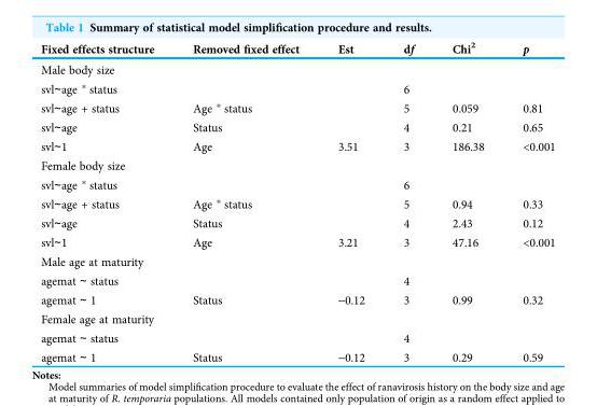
<table><thead><tr><td>Fixed effects structure</td><td>Removed fixed effect</td><td>Est</td><td>df</td><td>Chi<sup>2</sup></td><td>p</td></tr></thead><tbody><tr><td colspan="6">Male body size</td></tr><tr><td>svl∼age * status</td><td></td><td></td><td>6</td><td></td><td></td></tr><tr><td>svl∼age + status</td><td>Age * status</td><td></td><td>5</td><td>0.059</td><td>0.81</td></tr><tr><td>svl∼age</td><td>Status</td><td></td><td>4</td><td>0.21</td><td>0.65</td></tr><tr><td>svl∼1</td><td>Age</td><td>3.51</td><td>3</td><td>186.38</td><td>&lt;0.001</td></tr><tr><td colspan="6">Female body size</td></tr><tr><td>svl∼age * status</td><td></td><td></td><td>6</td><td></td><td></td></tr><tr><td>svl∼age + status</td><td>Age * status</td><td></td><td>5</td><td>0.94</td><td>0.33</td></tr><tr><td>svl∼age</td><td>Status</td><td></td><td>4</td><td>2.43</td><td>0.12</td></tr><tr><td>svl∼1</td><td>Age</td><td>3.21</td><td>3</td><td>47.16</td><td>&lt;0.001</td></tr><tr><td colspan="6">Male age at maturity</td></tr><tr><td>agemat ∼ status</td><td></td><td></td><td>4</td><td></td><td></td></tr><tr><td>agemat ∼ 1</td><td>Status</td><td>-0.12</td><td>3</td><td>0.99</td><td>0.32</td></tr><tr><td colspan="6">Female age at maturity</td></tr><tr><td>agemat ∼ status</td><td></td><td></td><td>4</td><td></td><td></td></tr><tr><td>agemat ∼ 1</td><td>Status</td><td>-0.12</td><td>3</td><td>0.29</td><td>0.59</td></tr></tbody></table>